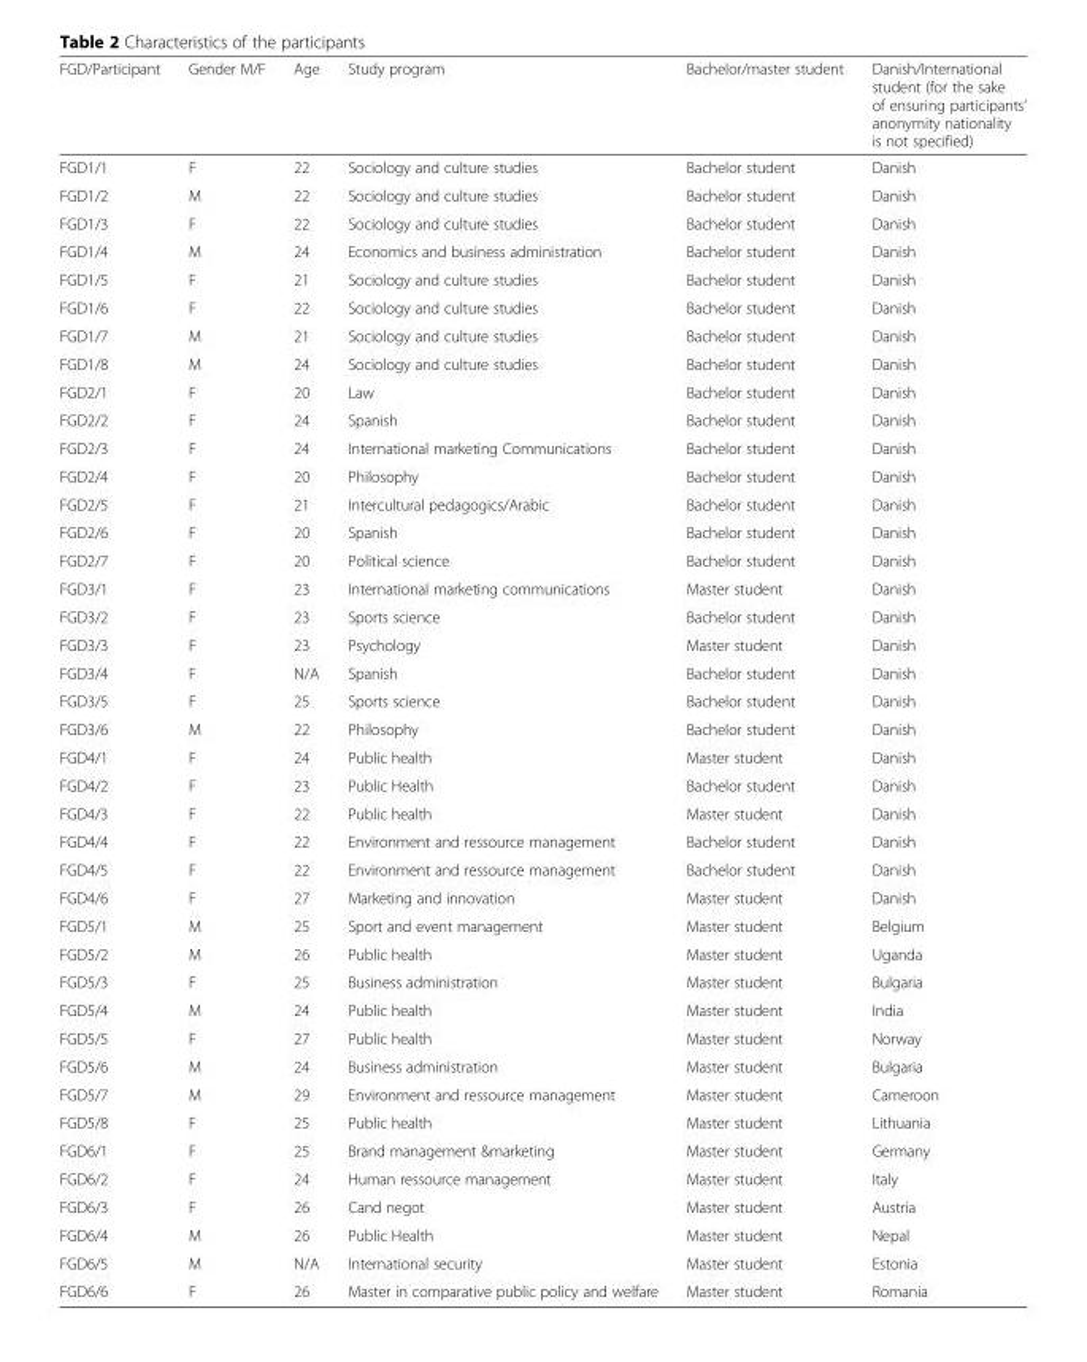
<table><thead><tr><td>FGD/Participant</td><td>Gender M/F</td><td>Age</td><td>Study program</td><td>Bachelor/master student</td><td>Danish/International student (for the sake of ensuring participants’ anonymity nationality is not specified)</td></tr></thead><tbody><tr><td>FGD1/1</td><td>F</td><td>22</td><td>Sociology and culture studies</td><td>Bachelor student</td><td>Danish</td></tr><tr><td>FGD1/2</td><td>M</td><td>22</td><td>Sociology and culture studies</td><td>Bachelor student</td><td>Danish</td></tr><tr><td>FGD1/3</td><td>F</td><td>22</td><td>Sociology and culture studies</td><td>Bachelor student</td><td>Danish</td></tr><tr><td>FGD1/4</td><td>M</td><td>24</td><td>Economics and business administration</td><td>Bachelor student</td><td>Danish</td></tr><tr><td>FGD1/5</td><td>F</td><td>21</td><td>Sociology and culture studies</td><td>Bachelor student</td><td>Danish</td></tr><tr><td>FGD1/6</td><td>F</td><td>22</td><td>Sociology and culture studies</td><td>Bachelor student</td><td>Danish</td></tr><tr><td>FGD1/7</td><td>M</td><td>21</td><td>Sociology and culture studies</td><td>Bachelor student</td><td>Danish</td></tr><tr><td>FGD1/8</td><td>M</td><td>24</td><td>Sociology and culture studies</td><td>Bachelor student</td><td>Danish</td></tr><tr><td>FGD2/1</td><td>F</td><td>20</td><td>Law</td><td>Bachelor student</td><td>Danish</td></tr><tr><td>FGD2/2</td><td>F</td><td>24</td><td>Spanish</td><td>Bachelor student</td><td>Danish</td></tr><tr><td>FGD2/3</td><td>F</td><td>24</td><td>International marketing Communications</td><td>Bachelor student</td><td>Danish</td></tr><tr><td>FGD2/4</td><td>F</td><td>20</td><td>Philosophy</td><td>Bachelor student</td><td>Danish</td></tr><tr><td>FGD2/5</td><td>F</td><td>21</td><td>Intercultural pedagogics/Arabic</td><td>Bachelor student</td><td>Danish</td></tr><tr><td>FGD2/6</td><td>F</td><td>20</td><td>Spanish</td><td>Bachelor student</td><td>Danish</td></tr><tr><td>FGD2/7</td><td>F</td><td>20</td><td>Political science</td><td>Bachelor student</td><td>Danish</td></tr><tr><td>FGD3/1</td><td>F</td><td>23</td><td>International marketing communications</td><td>Master student</td><td>Danish</td></tr><tr><td>FGD3/2</td><td>F</td><td>23</td><td>Sports science</td><td>Bachelor student</td><td>Danish</td></tr><tr><td>FGD3/3</td><td>F</td><td>23</td><td>Psychology</td><td>Master student</td><td>Danish</td></tr><tr><td>FGD3/4</td><td>F</td><td>N/A</td><td>Spanish</td><td>Bachelor student</td><td>Danish</td></tr><tr><td>FGD3/5</td><td>F</td><td>25</td><td>Sports science</td><td>Bachelor student</td><td>Danish</td></tr><tr><td>FGD3/6</td><td>M</td><td>22</td><td>Philosophy</td><td>Bachelor student</td><td>Danish</td></tr><tr><td>FGD4/1</td><td>F</td><td>24</td><td>Public health</td><td>Master student</td><td>Danish</td></tr><tr><td>FGD4/2</td><td>F</td><td>23</td><td>Public Health</td><td>Bachelor student</td><td>Danish</td></tr><tr><td>FGD4/3</td><td>F</td><td>22</td><td>Public health</td><td>Master student</td><td>Danish</td></tr><tr><td>FGD4/4</td><td>F</td><td>22</td><td>Environment and ressource management</td><td>Bachelor student</td><td>Danish</td></tr><tr><td>FGD4/5</td><td>F</td><td>22</td><td>Environment and ressource management</td><td>Bachelor student</td><td>Danish</td></tr><tr><td>FGD4/6</td><td>F</td><td>27</td><td>Marketing and innovation</td><td>Master student</td><td>Danish</td></tr><tr><td>FGD5/1</td><td>M</td><td>25</td><td>Sport and event management</td><td>Master student</td><td>Belgium</td></tr><tr><td>FGD5/2</td><td>M</td><td>26</td><td>Public health</td><td>Master student</td><td>Uganda</td></tr><tr><td>FGD5/3</td><td>F</td><td>25</td><td>Business administration</td><td>Master student</td><td>Bulgaria</td></tr><tr><td>FGD5/4</td><td>M</td><td>24</td><td>Public health</td><td>Master student</td><td>India</td></tr><tr><td>FGD5/5</td><td>F</td><td>27</td><td>Public health</td><td>Master student</td><td>Norway</td></tr><tr><td>FGD5/6</td><td>M</td><td>24</td><td>Business administration</td><td>Master student</td><td>Bulgaria</td></tr><tr><td>FGD5/7</td><td>M</td><td>29</td><td>Environment and ressource management</td><td>Master student</td><td>Cameroon</td></tr><tr><td>FGD5/8</td><td>F</td><td>25</td><td>Public health</td><td>Master student</td><td>Lithuania</td></tr><tr><td>FGD6/1</td><td>F</td><td>25</td><td>Brand management &amp;marketing</td><td>Master student</td><td>Germany</td></tr><tr><td>FGD6/2</td><td>F</td><td>24</td><td>Human ressource management</td><td>Master student</td><td>Italy</td></tr><tr><td>FGD6/3</td><td>F</td><td>26</td><td>Cand negot</td><td>Master student</td><td>Austria</td></tr><tr><td>FGD6/4</td><td>M</td><td>26</td><td>Public Health</td><td>Master student</td><td>Nepal</td></tr><tr><td>FGD6/5</td><td>M</td><td>N/A</td><td>International security</td><td>Master student</td><td>Estonia</td></tr><tr><td>FGD6/6</td><td>F</td><td>26</td><td>Master in comparative public policy and welfare</td><td>Master student</td><td>Romania</td></tr></tbody></table>